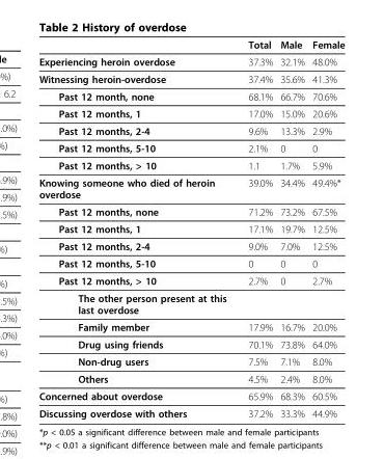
<table><thead><tr><td></td><td>Total</td><td>Male</td><td>Female</td></tr></thead><tbody><tr><td>Experiencing heroin overdose</td><td>37.3%</td><td>32.1%</td><td>48.0%</td></tr><tr><td>Witnessing heroin-overdose</td><td>37.4%</td><td>35.6%</td><td>41.3%</td></tr><tr><td>Past 12 month, none</td><td>68.1%</td><td>66.7%</td><td>70.6%</td></tr><tr><td>Past 12 months, 1</td><td>17.0%</td><td>15.0%</td><td>20.6%</td></tr><tr><td>Past 12 months, 2-4</td><td>9.6%</td><td>13.3%</td><td>2.9%</td></tr><tr><td>Past 12 months, 5-10</td><td>2.1%</td><td>0</td><td>0</td></tr><tr><td>Past 12 months, &gt; 10</td><td>1.1</td><td>1.7%</td><td>5.9%</td></tr><tr><td>Knowing someone who died of heroin overdose</td><td>39.0%</td><td>34.4%</td><td>49.4%*</td></tr><tr><td>Past 12 months, none</td><td>71.2%</td><td>73.2%</td><td>67.5%</td></tr><tr><td>Past 12 months, 1</td><td>17.1%</td><td>19.7%</td><td>12.5%</td></tr><tr><td>Past 12 months, 2-4</td><td>9.0%</td><td>7.0%</td><td>12.5%</td></tr><tr><td>Past 12 months, 5-10</td><td>0</td><td>0</td><td>0</td></tr><tr><td>Past 12 months, &gt; 10</td><td>2.7%</td><td>0</td><td>2.7%</td></tr><tr><td colspan="4">The other person present at this last overdose</td></tr><tr><td>Family member</td><td>17.9%</td><td>16.7%</td><td>20.0%</td></tr><tr><td>Drug using friends</td><td>70.1%</td><td>73.8%</td><td>64.0%</td></tr><tr><td>Non-drug users</td><td>7.5%</td><td>7.1%</td><td>8.0%</td></tr><tr><td>Others</td><td>4.5%</td><td>2.4%</td><td>8.0%</td></tr><tr><td>Concerned about overdose</td><td>65.9%</td><td>68.3%</td><td>60.5%</td></tr><tr><td>Discussing overdose with others</td><td>37.2%</td><td>33.3%</td><td>44.9%</td></tr></tbody></table>